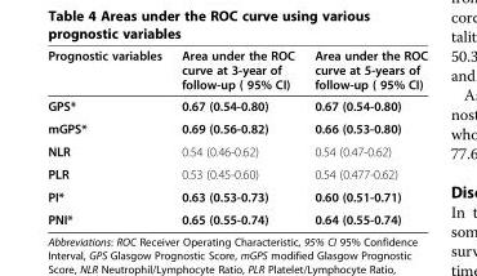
<table><thead><tr><td>Prognostic variables</td><td>Area under the ROC curve at 3-year of follow-up ( 95% CI)</td><td>Area under the ROC curve at 5-years of follow-up ( 95% CI)</td></tr></thead><tbody><tr><td>GPS*</td><td>0.67 (0.54-0.80)</td><td>0.67 (0.54-0.80)</td></tr><tr><td>mGPS*</td><td>0.69 (0.56-0.82)</td><td>0.66 (0.53-0.80)</td></tr><tr><td>NLR</td><td>0.54 (0.46-0.62)</td><td>0.54 (0.47-0.62)</td></tr><tr><td>PLR</td><td>0.53 (0.45-0.60)</td><td>0.54 (0.477-0.62)</td></tr><tr><td>PI*</td><td>0.63 (0.53-0.73)</td><td>0.60 (0.51-0.71)</td></tr><tr><td>PNI*</td><td>0.65 (0.55-0.74)</td><td>0.64 (0.55-0.74)</td></tr></tbody></table>